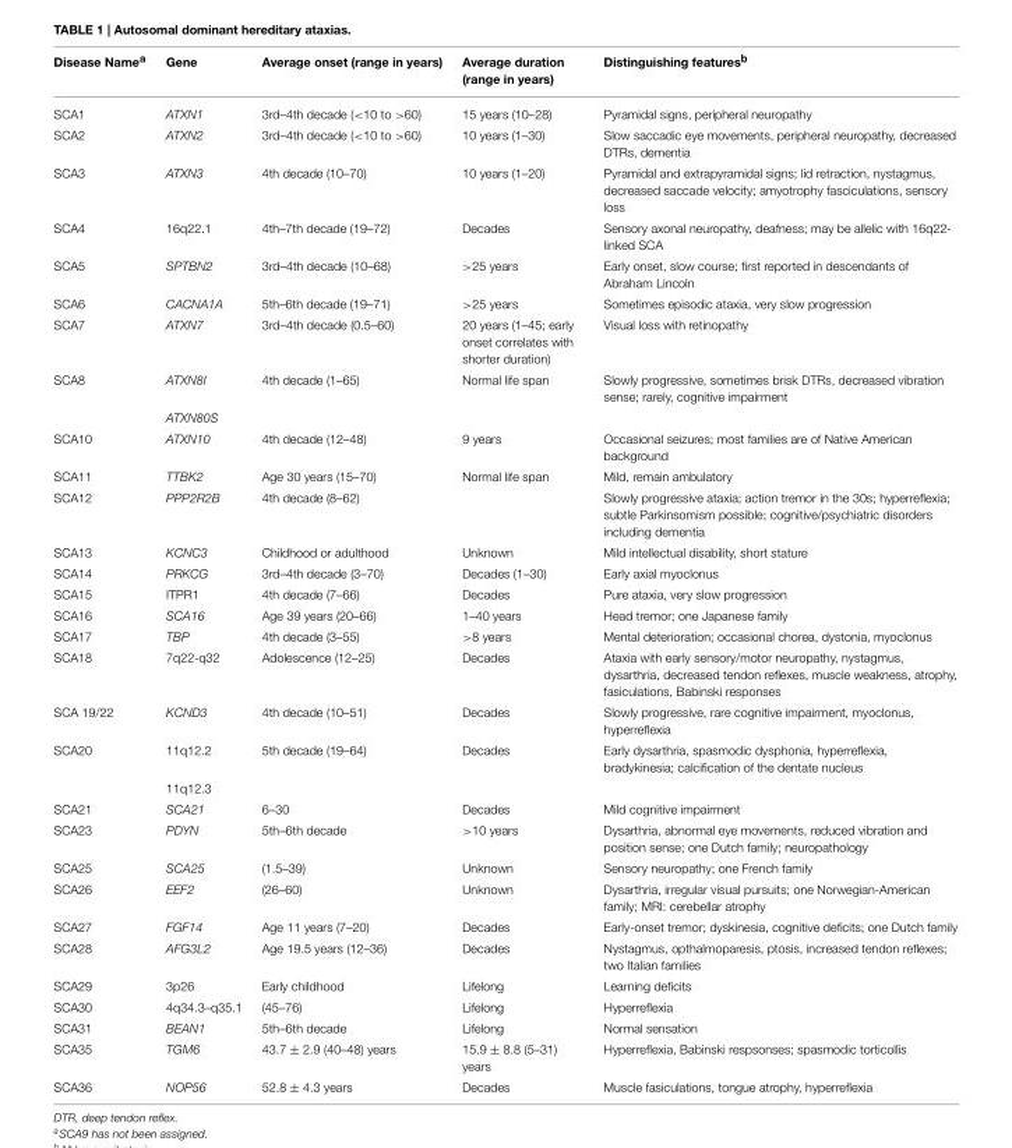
<table><thead><tr><td>Disease Name<sup>a</sup></td><td>Gene</td><td>Average onset (range in years)</td><td>Average duration (range in years)</td><td>Distinguishing features<sup>b</sup></td></tr></thead><tbody><tr><td>SCA1</td><td>ATXN1</td><td>3rd–4th decade (&lt;10 to &gt;60)</td><td>15 years (10–28)</td><td>Pyramidal signs, peripheral neuropathy</td></tr><tr><td>SCA2</td><td>ATXN2</td><td>3rd–4th decade (&lt;10 to &gt;60)</td><td>10 years (1–30)</td><td>Slow saccadic eye movements, peripheral neuropathy, decreased DTRs, dementia</td></tr><tr><td>SCA3</td><td>ATXN3</td><td>4th decade (10–70)</td><td>10 years (1–20)</td><td>Pyramidal and extrapyramidal signs; lid retraction, nystagmus, decreased saccade velocity; amyotrophy fasciculations, sensory loss</td></tr><tr><td>SCA4</td><td>16q22.1</td><td>4th–7th decade (19–72)</td><td>Decades</td><td>Sensory axonal neuropathy, deafness; may be allelic with 16q22- linked SCA</td></tr><tr><td>SCA5</td><td>SPTBN2</td><td>3rd–4th decade (10–68)</td><td>&gt;25 years</td><td>Early onset, slow course; first reported in descendants of Abraham Lincoln</td></tr><tr><td>SCA6</td><td>CACNA1A</td><td>5th–6th decade (19–71)</td><td>&gt;25 years</td><td>Sometimes episodic ataxia, very slow progression</td></tr><tr><td>SCA7</td><td>ATXN7</td><td>3rd–4th decade (0.5–60)</td><td>20 years (1–45; early onset correlates with shorter duration)</td><td>Visual loss with retinopathy</td></tr><tr><td rowspan="2">SCA8</td><td>ATXN8I</td><td>4th decade (1–65)</td><td>Normal life span</td><td>Slowly progressive, sometimes brisk DTRs, decreased vibration sense; rarely, cognitive impairment</td></tr><tr><td>ATXN80S</td><td></td><td></td><td></td></tr><tr><td>SCA10</td><td>ATXN10</td><td>4th decade (12–48)</td><td>9 years</td><td>Occasional seizures; most families are of Native American background</td></tr><tr><td>SCA11</td><td>TTBK2</td><td>Age 30 years (15–70)</td><td>Normal life span</td><td>Mild, remain ambulatory</td></tr><tr><td>SCA12</td><td>PPP2R2B</td><td>4th decade (8–62)</td><td></td><td>Slowly progressive ataxia; action tremor in the 30s; hyperreflexia; subtle Parkinsomism possible; cognitive/psychiatric disorders including dementia</td></tr><tr><td>SCA13</td><td>KCNC3</td><td>Childhood or adulthood</td><td>Unknown</td><td>Mild intellectual disability, short stature</td></tr><tr><td>SCA14</td><td>PRKCG</td><td>3rd–4th decade (3–70)</td><td>Decades (1–30)</td><td>Early axial myoclonus</td></tr><tr><td>SCA15</td><td>ITPR1</td><td>4th decade (7–66)</td><td>Decades</td><td>Pure ataxia, very slow progression</td></tr><tr><td>SCA16</td><td>SCA16</td><td>Age 39 years (20–66)</td><td>1–40 years</td><td>Head tremor; one Japanese family</td></tr><tr><td>SCA17</td><td>TBP</td><td>4th decade (3–55)</td><td>&gt;8 years</td><td>Mental deterioration; occasional chorea, dystonia, myoclonus</td></tr><tr><td>SCA18</td><td>7q22-q32</td><td>Adolescence (12–25)</td><td>Decades</td><td>Ataxia with early sensory/motor neuropathy, nystagmus, dysarthria, decreased tendon reflexes, muscle weakness, atrophy, fasiculations, Babinski responses</td></tr><tr><td>SCA 19/22</td><td>KCND3</td><td>4th decade (10–51)</td><td>Decades</td><td>Slowly progressive, rare cognitive impairment, myoclonus, hyperreflexia</td></tr><tr><td rowspan="2">SCA20</td><td>11q12.2</td><td>5th decade (19–64)</td><td>Decades</td><td>Early dysarthria, spasmodic dysphonia, hyperreflexia, bradykinesia; calcification of the dentate nucleus</td></tr><tr><td>11q12.3</td><td></td><td></td><td></td></tr><tr><td>SCA21</td><td>SCA21</td><td>6–30</td><td>Decades</td><td>Mild cognitive impairment</td></tr><tr><td>SCA23</td><td>PDYN</td><td>5th–6th decade</td><td>&gt;10 years</td><td>Dysarthria, abnormal eye movements, reduced vibration and position sense; one Dutch family; neuropathology</td></tr><tr><td>SCA25</td><td>SCA25</td><td>(1.5–39)</td><td>Unknown</td><td>Sensory neuropathy; one French family</td></tr><tr><td>SCA26</td><td>EEF2</td><td>(26–60)</td><td>Unknown</td><td>Dysarthria, irregular visual pursuits; one Norwegian-American family; MRI: cerebellar atrophy</td></tr><tr><td>SCA27</td><td>FGF14</td><td>Age 11 years (7–20)</td><td>Decades</td><td>Early-onset tremor; dyskinesia, cognitive deficits; one Dutch family</td></tr><tr><td>SCA28</td><td>AFG3L2</td><td>Age 19.5 years (12–36)</td><td>Decades</td><td>Nystagmus, opthalmoparesis, ptosis, increased tendon reflexes; two Italian families</td></tr><tr><td>SCA29</td><td>3p26</td><td>Early childhood</td><td>Lifelong</td><td>Learning deficits</td></tr><tr><td>SCA30</td><td>4q34.3–q35.1</td><td>(45–76)</td><td>Lifelong</td><td>Hyperreflexia</td></tr><tr><td>SCA31</td><td>BEAN1</td><td>5th–6th decade</td><td>Lifelong</td><td>Normal sensation</td></tr><tr><td>SCA35</td><td>TGM6</td><td>43.7 ± 2.9 (40–48) years</td><td>15.9 ± 8.8 (5–31) years</td><td>Hyperreflexia, Babinski respsonses; spasmodic torticollis</td></tr><tr><td>SCA36</td><td>NOP56</td><td>52.8 ± 4.3 years</td><td>Decades</td><td>Muscle fasiculations, tongue atrophy, hyperreflexia</td></tr></tbody></table>